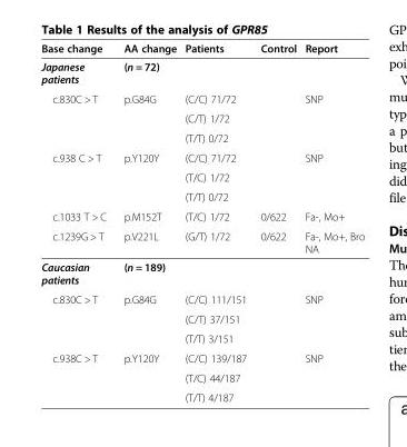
<table><thead><tr><td>Base change</td><td>AA change</td><td>Patients</td><td>Control</td><td>Report</td></tr></thead><tbody><tr><td>Japanese patients</td><td>(n = 72)</td><td></td><td></td><td></td></tr><tr><td rowspan="3">c.830C &gt; T</td><td>p.G84G</td><td>(C/C) 71/72</td><td></td><td>SNP</td></tr><tr><td></td><td>(C/T) 1/72</td><td></td><td></td></tr><tr><td></td><td>(T/T) 0/72</td><td></td><td></td></tr><tr><td rowspan="3">c.938 C &gt; T</td><td>p.Y120Y</td><td>(C/C) 71/72</td><td></td><td>SNP</td></tr><tr><td></td><td>(T/C) 1/72</td><td></td><td></td></tr><tr><td></td><td>(T/T) 0/72</td><td></td><td></td></tr><tr><td>c.1033 T &gt; C</td><td>p.M152T</td><td>(T/C) 1/72</td><td>0/622</td><td>Fa-, Mo+</td></tr><tr><td>c.1239G &gt; T</td><td>p.V221L</td><td>(G/T) 1/72</td><td>0/622</td><td>Fa-, Mo+, Bro NA</td></tr><tr><td>Caucasian patients</td><td>(n = 189)</td><td></td><td></td><td></td></tr><tr><td rowspan="3">c.830C &gt; T</td><td>p.G84G</td><td>(C/C) 111/151</td><td></td><td>SNP</td></tr><tr><td></td><td>(C/T) 37/151</td><td></td><td></td></tr><tr><td></td><td>(T/T) 3/151</td><td></td><td></td></tr><tr><td rowspan="3">c.938C &gt; T</td><td>p.Y120Y</td><td>(C/C) 139/187</td><td></td><td>SNP</td></tr><tr><td></td><td>(T/C) 44/187</td><td></td><td></td></tr><tr><td></td><td>(T/T) 4/187</td><td></td><td></td></tr></tbody></table>